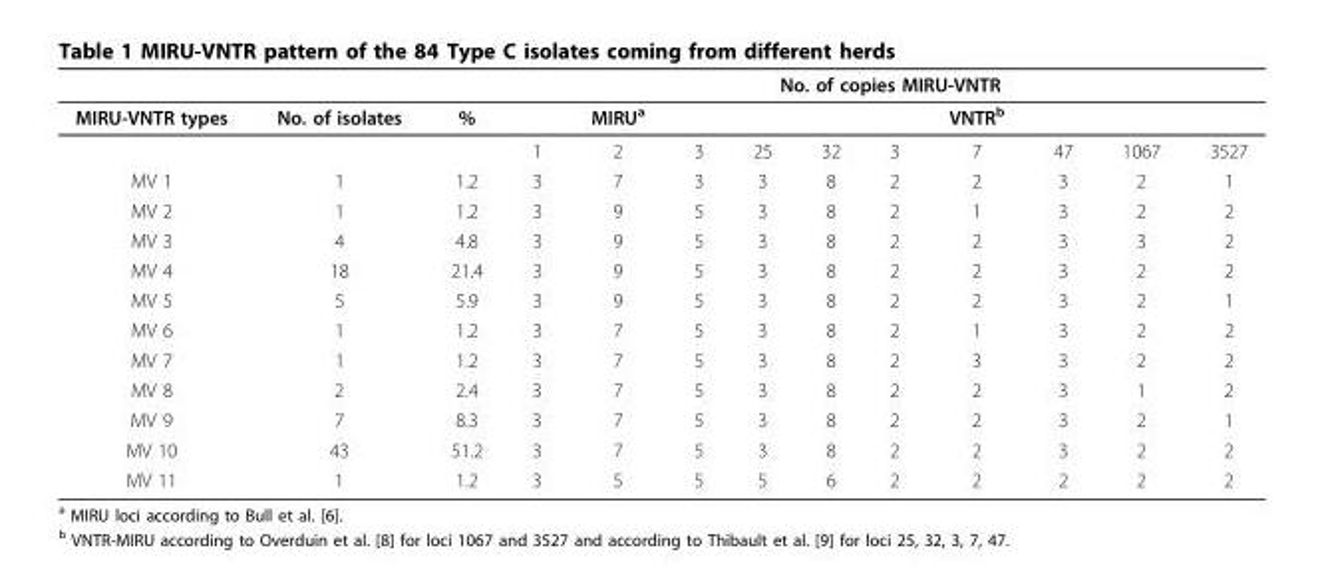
<table><thead><tr><td rowspan="2">MIRU-VNTR types</td><td rowspan="2">No. of isolates</td><td rowspan="2">%</td><td colspan="10">No. of copies MIRU-VNTR</td></tr><tr><td></td><td>MIRU<sup>a</sup></td><td></td><td></td><td></td><td></td><td>VNTR<sup>b</sup></td><td></td><td></td><td></td></tr></thead><tbody><tr><td></td><td></td><td></td><td>1</td><td>2</td><td>3</td><td>25</td><td>32</td><td>3</td><td>7</td><td>47</td><td>1067</td><td>3527</td></tr><tr><td>MV 1</td><td>1</td><td>1.2</td><td>3</td><td>7</td><td>3</td><td>3</td><td>8</td><td>2</td><td>2</td><td>3</td><td>2</td><td>1</td></tr><tr><td>MV 2</td><td>1</td><td>1.2</td><td>3</td><td>9</td><td>5</td><td>3</td><td>8</td><td>2</td><td>1</td><td>3</td><td>2</td><td>2</td></tr><tr><td>MV 3</td><td>4</td><td>4.8</td><td>3</td><td>9</td><td>5</td><td>3</td><td>8</td><td>2</td><td>2</td><td>3</td><td>3</td><td>2</td></tr><tr><td>MV 4</td><td>18</td><td>21.4</td><td>3</td><td>9</td><td>5</td><td>3</td><td>8</td><td>2</td><td>2</td><td>3</td><td>2</td><td>2</td></tr><tr><td>MV 5</td><td>5</td><td>5.9</td><td>3</td><td>9</td><td>5</td><td>3</td><td>8</td><td>2</td><td>2</td><td>3</td><td>2</td><td>1</td></tr><tr><td>MV 6</td><td>1</td><td>1.2</td><td>3</td><td>7</td><td>5</td><td>3</td><td>8</td><td>2</td><td>1</td><td>3</td><td>2</td><td>2</td></tr><tr><td>MV 7</td><td>1</td><td>1.2</td><td>3</td><td>7</td><td>5</td><td>3</td><td>8</td><td>2</td><td>3</td><td>3</td><td>2</td><td>2</td></tr><tr><td>MV 8</td><td>2</td><td>2.4</td><td>3</td><td>7</td><td>5</td><td>3</td><td>8</td><td>2</td><td>2</td><td>3</td><td>1</td><td>2</td></tr><tr><td>MV 9</td><td>7</td><td>8.3</td><td>3</td><td>7</td><td>5</td><td>3</td><td>8</td><td>2</td><td>2</td><td>3</td><td>2</td><td>1</td></tr><tr><td>MV 10</td><td>43</td><td>51.2</td><td>3</td><td>7</td><td>5</td><td>3</td><td>8</td><td>2</td><td>2</td><td>3</td><td>2</td><td>2</td></tr><tr><td>MV 11</td><td>1</td><td>1.2</td><td>3</td><td>5</td><td>5</td><td>5</td><td>6</td><td>2</td><td>2</td><td>2</td><td>2</td><td>2</td></tr></tbody></table>